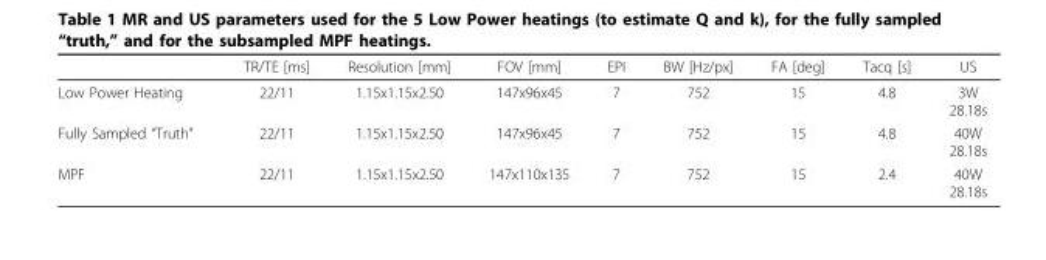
<table><thead><tr><td></td><td>TR/TE [ms]</td><td>Resolution [mm]</td><td>FOV [mm]</td><td>EPI</td><td>BW [Hz/px]</td><td>FA [deg]</td><td>Tacq [s]</td><td>US</td></tr></thead><tbody><tr><td>Low Power Heating</td><td>22/11</td><td>1.15x1.15x2.50</td><td>147x96x45</td><td>7</td><td>752</td><td>15</td><td>4.8</td><td>3W 28.18s</td></tr><tr><td>Fully Sampled “Truth”</td><td>22/11</td><td>1.15x1.15x2.50</td><td>147x96x45</td><td>7</td><td>752</td><td>15</td><td>4.8</td><td>40W 28.18s</td></tr><tr><td>MPF</td><td>22/11</td><td>1.15x1.15x2.50</td><td>147x110x135</td><td>7</td><td>752</td><td>15</td><td>2.4</td><td>40W 28.18s</td></tr></tbody></table>